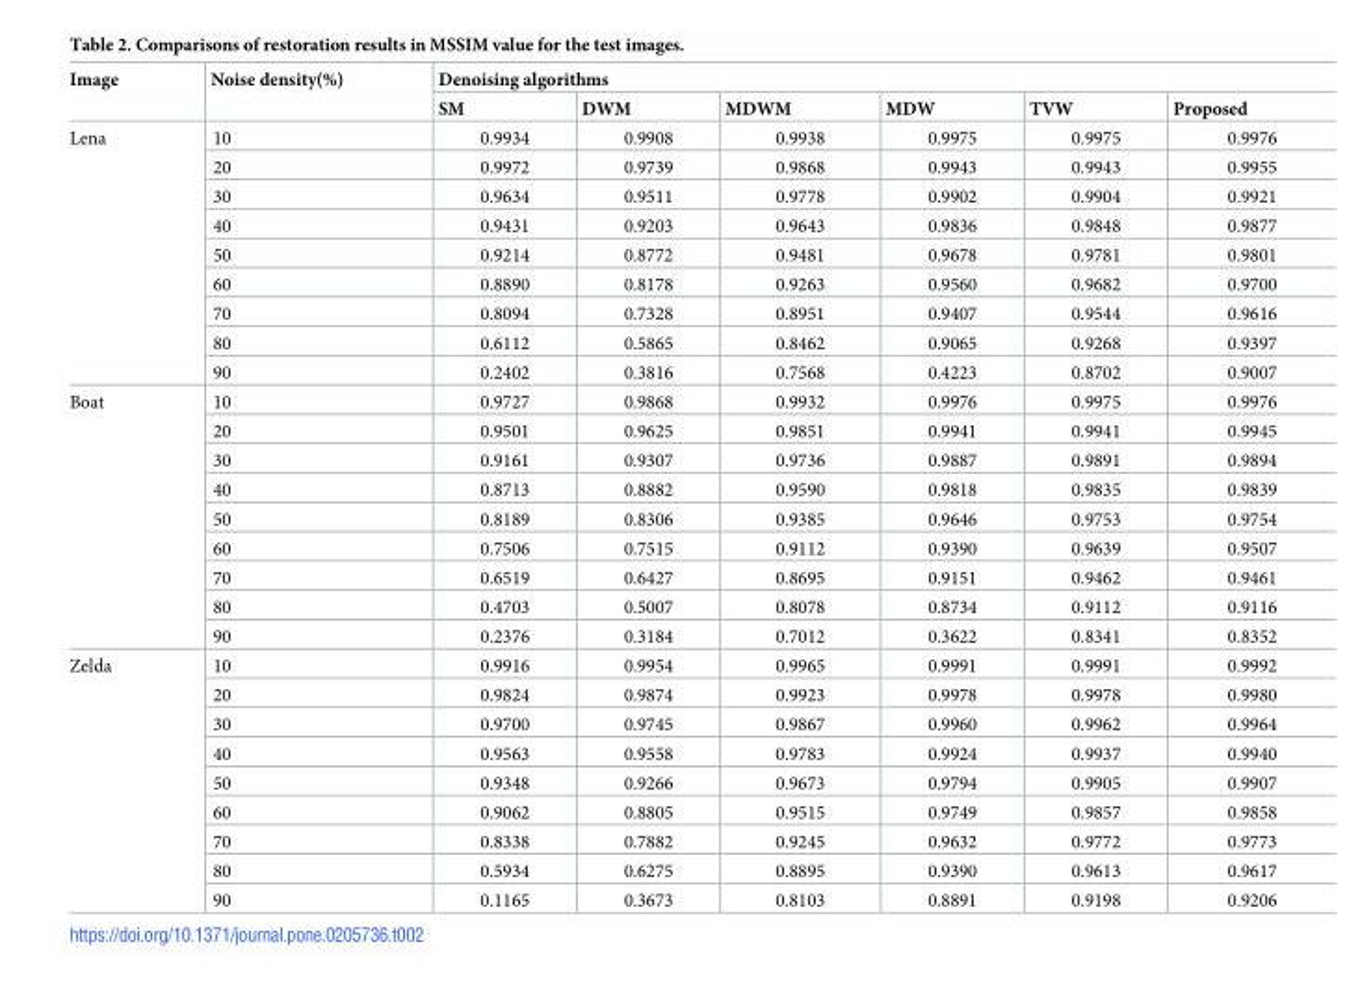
<table><thead><tr><td rowspan="2">Image</td><td rowspan="2">Noise density(%)</td><td colspan="6">Denoising algorithms</td></tr><tr><td>SM</td><td>DWM</td><td>MDWM</td><td>MDW</td><td>TVW</td><td>Proposed</td></tr></thead><tbody><tr><td rowspan="9">Lena</td><td>10</td><td>0.9934</td><td>0.9908</td><td>0.9938</td><td>0.9975</td><td>0.9975</td><td>0.9976</td></tr><tr><td>20</td><td>0.9972</td><td>0.9739</td><td>0.9868</td><td>0.9943</td><td>0.9943</td><td>0.9955</td></tr><tr><td>30</td><td>0.9634</td><td>0.9511</td><td>0.9778</td><td>0.9902</td><td>0.9904</td><td>0.9921</td></tr><tr><td>40</td><td>0.9431</td><td>0.9203</td><td>0.9643</td><td>0.9836</td><td>0.9848</td><td>0.9877</td></tr><tr><td>50</td><td>0.9214</td><td>0.8772</td><td>0.9481</td><td>0.9678</td><td>0.9781</td><td>0.9801</td></tr><tr><td>60</td><td>0.8890</td><td>0.8178</td><td>0.9263</td><td>0.9560</td><td>0.9682</td><td>0.9700</td></tr><tr><td>70</td><td>0.8094</td><td>0.7328</td><td>0.8951</td><td>0.9407</td><td>0.9544</td><td>0.9616</td></tr><tr><td>80</td><td>0.6112</td><td>0.5865</td><td>0.8462</td><td>0.9065</td><td>0.9268</td><td>0.9397</td></tr><tr><td>90</td><td>0.2402</td><td>0.3816</td><td>0.7568</td><td>0.4223</td><td>0.8702</td><td>0.9007</td></tr><tr><td rowspan="9">Boat</td><td>10</td><td>0.9727</td><td>0.9868</td><td>0.9932</td><td>0.9976</td><td>0.9975</td><td>0.9976</td></tr><tr><td>20</td><td>0.9501</td><td>0.9625</td><td>0.9851</td><td>0.9941</td><td>0.9941</td><td>0.9945</td></tr><tr><td>30</td><td>0.9161</td><td>0.9307</td><td>0.9736</td><td>0.9887</td><td>0.9891</td><td>0.9894</td></tr><tr><td>40</td><td>0.8713</td><td>0.8882</td><td>0.9590</td><td>0.9818</td><td>0.9835</td><td>0.9839</td></tr><tr><td>50</td><td>0.8189</td><td>0.8306</td><td>0.9385</td><td>0.9646</td><td>0.9753</td><td>0.9754</td></tr><tr><td>60</td><td>0.7506</td><td>0.7515</td><td>0.9112</td><td>0.9390</td><td>0.9639</td><td>0.9507</td></tr><tr><td>70</td><td>0.6519</td><td>0.6427</td><td>0.8695</td><td>0.9151</td><td>0.9462</td><td>0.9461</td></tr><tr><td>80</td><td>0.4703</td><td>0.5007</td><td>0.8078</td><td>0.8734</td><td>0.9112</td><td>0.9116</td></tr><tr><td>90</td><td>0.2376</td><td>0.3184</td><td>0.7012</td><td>0.3622</td><td>0.8341</td><td>0.8352</td></tr><tr><td rowspan="9">Zelda</td><td>10</td><td>0.9916</td><td>0.9954</td><td>0.9965</td><td>0.9991</td><td>0.9991</td><td>0.9992</td></tr><tr><td>20</td><td>0.9824</td><td>0.9874</td><td>0.9923</td><td>0.9978</td><td>0.9978</td><td>0.9980</td></tr><tr><td>30</td><td>0.9700</td><td>0.9745</td><td>0.9867</td><td>0.9960</td><td>0.9962</td><td>0.9964</td></tr><tr><td>40</td><td>0.9563</td><td>0.9558</td><td>0.9783</td><td>0.9924</td><td>0.9937</td><td>0.9940</td></tr><tr><td>50</td><td>0.9348</td><td>0.9266</td><td>0.9673</td><td>0.9794</td><td>0.9905</td><td>0.9907</td></tr><tr><td>60</td><td>0.9062</td><td>0.8805</td><td>0.9515</td><td>0.9749</td><td>0.9857</td><td>0.9858</td></tr><tr><td>70</td><td>0.8338</td><td>0.7882</td><td>0.9245</td><td>0.9632</td><td>0.9772</td><td>0.9773</td></tr><tr><td>80</td><td>0.5934</td><td>0.6275</td><td>0.8895</td><td>0.9390</td><td>0.9613</td><td>0.9617</td></tr><tr><td>90</td><td>0.1165</td><td>0.3673</td><td>0.8103</td><td>0.8891</td><td>0.9198</td><td>0.9206</td></tr></tbody></table>